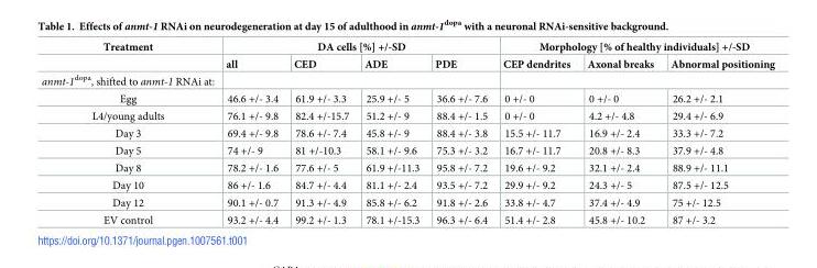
<table><thead><tr><td rowspan="2">Treatment</td><td colspan="4">DA cells [%] +/-SD</td><td colspan="3">Morphology [% of healthy individuals] +/-SD</td></tr><tr><td>all</td><td>CED</td><td>ADE</td><td>PDE</td><td>CEP dendrites</td><td>Axonal breaks</td><td>Abnormal positioning</td></tr></thead><tbody><tr><td colspan="8">anmt-1<sup>dopa</sup>, shifted to anmt-1 RNAi at:</td></tr><tr><td>Egg</td><td>46.6 +/- 3.4</td><td>61.9 +/- 3.3</td><td>25.9 +/- 5</td><td>36.6 +/- 7.6</td><td>0 +/- 0</td><td>0 +/- 0</td><td>26.2 +/- 2.1</td></tr><tr><td>L4/young adults</td><td>76.1 +/- 9.8</td><td>82.4 +/-15.7</td><td>51.2 +/- 9</td><td>88.4 +/- 1.5</td><td>0 +/- 0</td><td>4.2 +/- 4.8</td><td>29.4 +/- 6.9</td></tr><tr><td>Day 3</td><td>69.4 +/- 9.8</td><td>78.6 +/- 7.4</td><td>45.8 +/- 9</td><td>88.4 +/- 3.8</td><td>15.5 +/- 11.7</td><td>16.9 +/- 2.4</td><td>33.3 +/- 7.2</td></tr><tr><td>Day 5</td><td>74 +/- 9</td><td>81 +/-10.3</td><td>58.1 +/- 9.6</td><td>75.3 +/- 3.2</td><td>16.7 +/- 11.7</td><td>20.8 +/- 8.3</td><td>37.9 +/- 4.8</td></tr><tr><td>Day 8</td><td>78.2 +/- 1.6</td><td>77.6 +/- 5</td><td>61.9 +/-11.3</td><td>95.8 +/- 7.2</td><td>19.6 +/- 9.2</td><td>32.1 +/- 2.4</td><td>88.9 +/- 11.1</td></tr><tr><td>Day 10</td><td>86 +/- 1.6</td><td>84.7 +/- 4.4</td><td>81.1 +/- 2.4</td><td>93.5 +/- 7.2</td><td>29.9 +/- 9.2</td><td>24.3 +/- 5</td><td>87.5 +/- 12.5</td></tr><tr><td>Day 12</td><td>90.1 +/- 0.7</td><td>91.3 +/- 4.9</td><td>85.8 +/- 6.2</td><td>91.8 +/- 2.6</td><td>33.8 +/- 4.7</td><td>37.4 +/- 4.9</td><td>75 +/- 12.5</td></tr><tr><td>EV control</td><td>93.2 +/- 4.4</td><td>99.2 +/- 1.3</td><td>78.1 +/-15.3</td><td>96.3 +/- 6.4</td><td>51.4 +/- 2.8</td><td>45.8 +/- 10.2</td><td>87 +/- 3.2</td></tr></tbody></table>